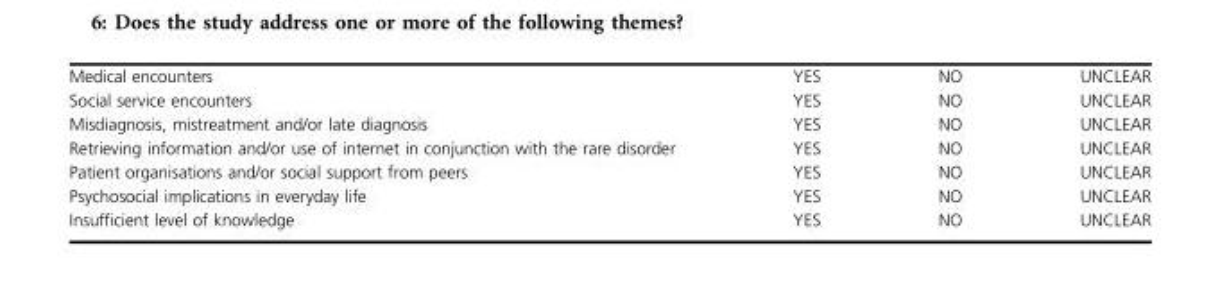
<table><tbody><tr><td>Medical encounters</td><td>⁭YES</td><td>⁭NO</td><td>⁭UNCLEAR</td></tr><tr><td>Social service encounters</td><td>⁭YES</td><td>⁭NO</td><td>⁭UNCLEAR</td></tr><tr><td>Misdiagnosis, mistreatment and/or late diagnosis</td><td>⁭YES</td><td>⁭NO</td><td>⁭UNCLEAR</td></tr><tr><td>Retrieving information and/or use of internet in conjunction with the rare disorder</td><td>⁭YES</td><td>⁭NO</td><td>⁭UNCLEAR</td></tr><tr><td>Patient organisations and/or social support from peers</td><td>⁭YES</td><td>⁭NO</td><td>⁭UNCLEAR</td></tr><tr><td>Psychosocial implications in everyday life</td><td>⁭YES</td><td>⁭NO</td><td>⁭UNCLEAR</td></tr><tr><td>Insufficient level of knowledge</td><td>⁭YES</td><td>⁭NO</td><td>⁭UNCLEAR</td></tr></tbody></table>